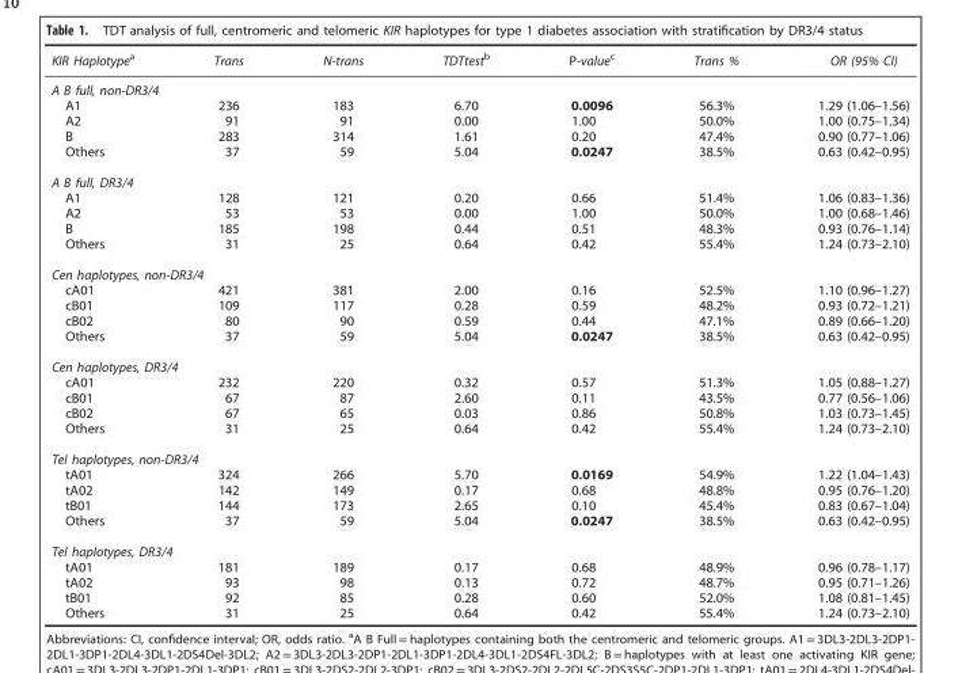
<table><thead><tr><td>KIR Haplotype<sup>a</sup></td><td>Trans</td><td>N-trans</td><td>TDTtest<sup>b</sup></td><td>P-value<sup>c</sup></td><td>Trans %</td><td>OR (95% CI)</td></tr></thead><tbody><tr><td colspan="7">A B full, non-DR3/4</td></tr><tr><td>A1</td><td>236</td><td>183</td><td>6.70</td><td>0.0096</td><td>56.3%</td><td>1.29 (1.06–1.56)</td></tr><tr><td>A2</td><td>91</td><td>91</td><td>0.00</td><td>1.00</td><td>50.0%</td><td>1.00 (0.75–1.34)</td></tr><tr><td>B</td><td>283</td><td>314</td><td>1.61</td><td>0.20</td><td>47.4%</td><td>0.90 (0.77–1.06)</td></tr><tr><td>Others</td><td>37</td><td>59</td><td>5.04</td><td>0.0247</td><td>38.5%</td><td>0.63 (0.42–0.95)</td></tr><tr><td colspan="7">A B full, DR3/4</td></tr><tr><td>A1</td><td>128</td><td>121</td><td>0.20</td><td>0.66</td><td>51.4%</td><td>1.06 (0.83–1.36)</td></tr><tr><td>A2</td><td>53</td><td>53</td><td>0.00</td><td>1.00</td><td>50.0%</td><td>1.00 (0.68–1.46)</td></tr><tr><td>B</td><td>185</td><td>198</td><td>0.44</td><td>0.51</td><td>48.3%</td><td>0.93 (0.76–1.14)</td></tr><tr><td>Others</td><td>31</td><td>25</td><td>0.64</td><td>0.42</td><td>55.4%</td><td>1.24 (0.73–2.10)</td></tr><tr><td colspan="7">Cen haplotypes, non-DR3/4</td></tr><tr><td>cA01</td><td>421</td><td>381</td><td>2.00</td><td>0.16</td><td>52.5%</td><td>1.10 (0.96–1.27)</td></tr><tr><td>cB01</td><td>109</td><td>117</td><td>0.28</td><td>0.59</td><td>48.2%</td><td>0.93 (0.72–1.21)</td></tr><tr><td>cB02</td><td>80</td><td>90</td><td>0.59</td><td>0.44</td><td>47.1%</td><td>0.89 (0.66–1.20)</td></tr><tr><td>Others</td><td>37</td><td>59</td><td>5.04</td><td>0.0247</td><td>38.5%</td><td>0.63 (0.42–0.95)</td></tr><tr><td colspan="7">Cen haplotypes, DR3/4</td></tr><tr><td>cA01</td><td>232</td><td>220</td><td>0.32</td><td>0.57</td><td>51.3%</td><td>1.05 (0.88–1.27)</td></tr><tr><td>cB01</td><td>67</td><td>87</td><td>2.60</td><td>0.11</td><td>43.5%</td><td>0.77 (0.56–1.06)</td></tr><tr><td>cB02</td><td>67</td><td>65</td><td>0.03</td><td>0.86</td><td>50.8%</td><td>1.03 (0.73–1.45)</td></tr><tr><td>Others</td><td>31</td><td>25</td><td>0.64</td><td>0.42</td><td>55.4%</td><td>1.24 (0.73–2.10)</td></tr><tr><td colspan="7">Tel haplotypes, non-DR3/4</td></tr><tr><td>tA01</td><td>324</td><td>266</td><td>5.70</td><td>0.0169</td><td>54.9%</td><td>1.22 (1.04–1.43)</td></tr><tr><td>tA02</td><td>142</td><td>149</td><td>0.17</td><td>0.68</td><td>48.8%</td><td>0.95 (0.76–1.20)</td></tr><tr><td>tB01</td><td>144</td><td>173</td><td>2.65</td><td>0.10</td><td>45.4%</td><td>0.83 (0.67–1.04)</td></tr><tr><td>Others</td><td>37</td><td>59</td><td>5.04</td><td>0.0247</td><td>38.5%</td><td>0.63 (0.42–0.95)</td></tr><tr><td colspan="7">Tel haplotypes, DR3/4</td></tr><tr><td>tA01</td><td>181</td><td>189</td><td>0.17</td><td>0.68</td><td>48.9%</td><td>0.96 (0.78–1.17)</td></tr><tr><td>tA02</td><td>93</td><td>98</td><td>0.13</td><td>0.72</td><td>48.7%</td><td>0.95 (0.71–1.26)</td></tr><tr><td>tB01</td><td>92</td><td>85</td><td>0.28</td><td>0.60</td><td>52.0%</td><td>1.08 (0.81–1.45)</td></tr><tr><td>Others</td><td>31</td><td>25</td><td>0.64</td><td>0.42</td><td>55.4%</td><td>1.24 (0.73–2.10)</td></tr></tbody></table>